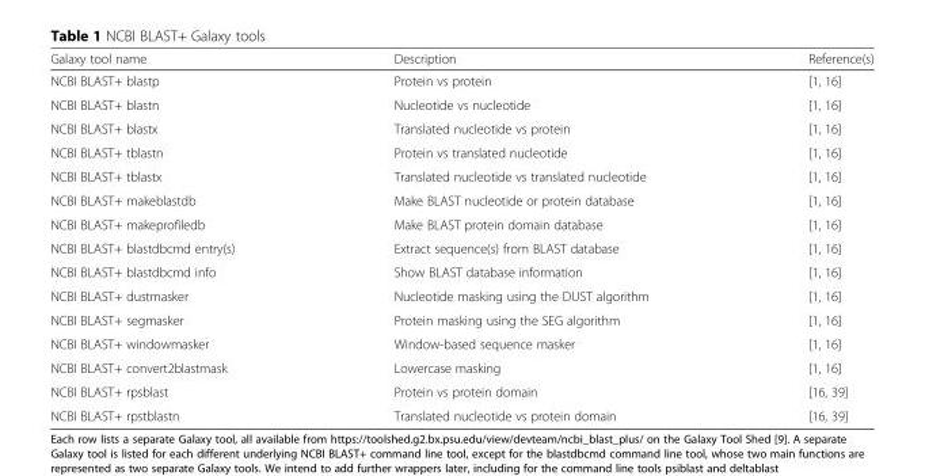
<table><thead><tr><td>Galaxy tool name</td><td>Description</td><td>Reference(s)</td></tr></thead><tbody><tr><td>NCBI BLAST+ blastp</td><td>Protein vs protein</td><td>[1, 16]</td></tr><tr><td>NCBI BLAST+ blastn</td><td>Nucleotide vs nucleotide</td><td>[1, 16]</td></tr><tr><td>NCBI BLAST+ blastx</td><td>Translated nucleotide vs protein</td><td>[1, 16]</td></tr><tr><td>NCBI BLAST+ tblastn</td><td>Protein vs translated nucleotide</td><td>[1, 16]</td></tr><tr><td>NCBI BLAST+ tblastx</td><td>Translated nucleotide vs translated nucleotide</td><td>[1, 16]</td></tr><tr><td>NCBI BLAST+ makeblastdb</td><td>Make BLAST nucleotide or protein database</td><td>[1, 16]</td></tr><tr><td>NCBI BLAST+ makeprofiledb</td><td>Make BLAST protein domain database</td><td>[1, 16]</td></tr><tr><td>NCBI BLAST+ blastdbcmd entry(s)</td><td>Extract sequence(s) from BLAST database</td><td>[1, 16]</td></tr><tr><td>NCBI BLAST+ blastdbcmd info</td><td>Show BLAST database information</td><td>[1, 16]</td></tr><tr><td>NCBI BLAST+ dustmasker</td><td>Nucleotide masking using the DUST algorithm</td><td>[1, 16]</td></tr><tr><td>NCBI BLAST+ segmasker</td><td>Protein masking using the SEG algorithm</td><td>[1, 16]</td></tr><tr><td>NCBI BLAST+ windowmasker</td><td>Window-based sequence masker</td><td>[1, 16]</td></tr><tr><td>NCBI BLAST+ convert2blastmask</td><td>Lowercase masking</td><td>[1, 16]</td></tr><tr><td>NCBI BLAST+ rpsblast</td><td>Protein vs protein domain</td><td>[16, 39]</td></tr><tr><td>NCBI BLAST+ rpstblastn</td><td>Translated nucleotide vs protein domain</td><td>[16, 39]</td></tr></tbody></table>